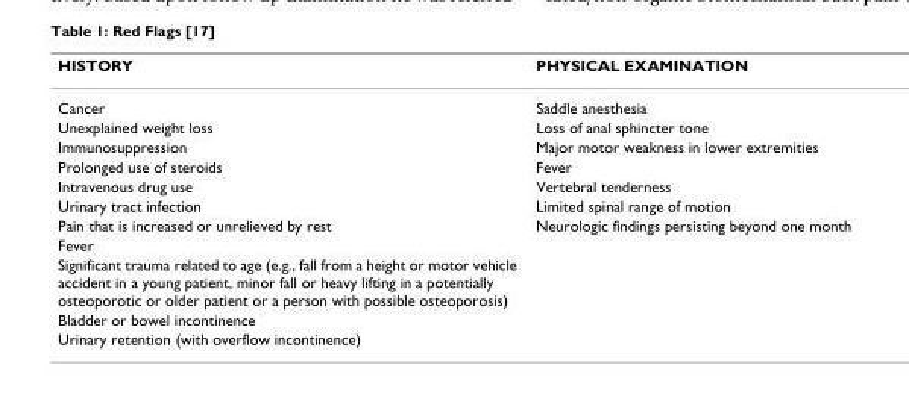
<table><thead><tr><td>HISTORY</td><td>PHYSICAL EXAMINATION</td></tr></thead><tbody><tr><td>Cancer</td><td>Saddle anesthesia</td></tr><tr><td>Unexplained weight loss</td><td>Loss of anal sphincter tone</td></tr><tr><td>Immunosuppression</td><td>Major motor weakness in lower extremities</td></tr><tr><td>Prolonged use of steroids</td><td>Fever</td></tr><tr><td>Intravenous drug use</td><td>Vertebral tenderness</td></tr><tr><td>Urinary tract infection</td><td>Limited spinal range of motion</td></tr><tr><td>Pain that is increased or unrelieved by rest</td><td>Neurologic findings persisting beyond one month</td></tr><tr><td colspan="2">Fever</td></tr><tr><td colspan="2">Significant trauma related to age (e.g., fall from a height or motor vehicle accident in a young patient, minor fall or heavy lifting in a potentially osteoporotic or older patient or a person with possible osteoporosis)</td></tr><tr><td colspan="2">Bladder or bowel incontinence</td></tr><tr><td>Urinary retention (with overflow incontinence)</td><td></td></tr></tbody></table>